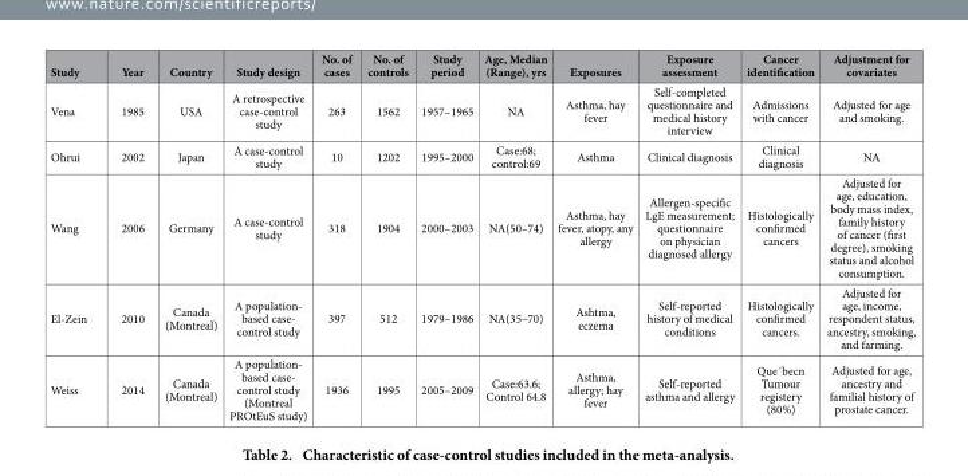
<table><thead><tr><td>Study</td><td>Year</td><td>Country</td><td>Study design</td><td>No. of cases</td><td>No. of controls</td><td>Study period</td><td>Age, Median (Range), yrs</td><td>Exposures</td><td>Exposure assessment</td><td>Cancer identification</td><td>Adjustment for covariates</td></tr></thead><tbody><tr><td>Vena</td><td>1985</td><td>USA</td><td>A retrospective case-control study</td><td>263</td><td>1562</td><td>1957–1965</td><td>NA</td><td>Asthma, hay fever</td><td>Self-completed questionnaire and medical history interview</td><td>Admissions with cancer</td><td>Adjusted for age and smoking.</td></tr><tr><td>Ohrui</td><td>2002</td><td>Japan</td><td>A case-control study</td><td>10</td><td>1202</td><td>1995–2000</td><td>Case:68; control:69</td><td>Asthma</td><td>Clinical diagnosis</td><td>Clinical diagnosis</td><td>NA</td></tr><tr><td>Wang</td><td>2006</td><td>Germany</td><td>A case-control study</td><td>318</td><td>1904</td><td>2000–2003</td><td>NA(50–74)</td><td>Asthma, hay fever, atopy, any allergy</td><td>Allergen-specific LgE measurement; questionnaire on physician diagnosed allergy</td><td>Histologically confirmed cancers</td><td>Adjusted for age, education, body mass index, family history of cancer (first degree), smoking status and alcohol consumption.</td></tr><tr><td>El-Zein</td><td>2010</td><td>Canada (Montreal)</td><td>A population- based case- control study</td><td>397</td><td>512</td><td>1979–1986</td><td>NA(35–70)</td><td>Ashtma, eczema</td><td>Self-reported history of medical conditions</td><td>Histologically confirmed cancers.</td><td>Adjusted for age, income, respondent status, ancestry, smoking, and farming.</td></tr><tr><td>Weiss</td><td>2014</td><td>Canada (Montreal)</td><td>A population- based case- control study (Montreal PROtEuS study)</td><td>1936</td><td>1995</td><td>2005–2009</td><td>Case:63.6; Control 64.8</td><td>Asthma, allergy; hay fever</td><td>Self-reported asthma and allergy</td><td>Que´becn Tumour registery (80%)</td><td>Adjusted for age, ancestry and familial history of prostate cancer.</td></tr></tbody></table>